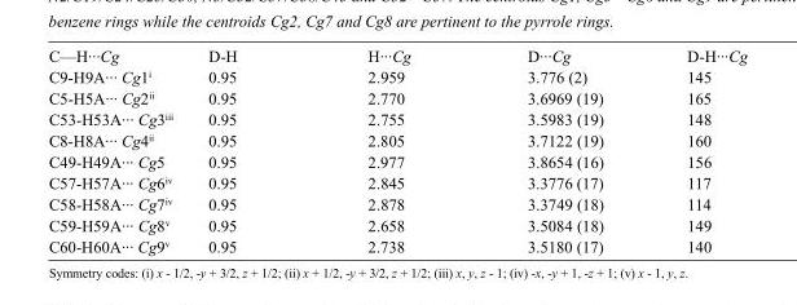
<table><tbody><tr><td>C—H···Cg</td><td>D-H</td><td>H···Cg</td><td>D···Cg</td><td>D-H···Cg</td></tr><tr><td>C9-H9A··· Cg1<sup>i</sup></td><td>0.95</td><td>2.959</td><td>3.776 (2)</td><td>145</td></tr><tr><td>C5-H5A··· Cg2<sup>ii</sup></td><td>0.95</td><td>2.770</td><td>3.6969 (19)</td><td>165</td></tr><tr><td>C53-H53A··· Cg3<sup>iii</sup></td><td>0.95</td><td>2.755</td><td>3.5983 (19)</td><td>148</td></tr><tr><td>C8-H8A··· Cg4<sup>ii</sup></td><td>0.95</td><td>2.805</td><td>3.7122 (19)</td><td>160</td></tr><tr><td>C49-H49A··· Cg5</td><td>0.95</td><td>2.977</td><td>3.8654 (16)</td><td>156</td></tr><tr><td>C57-H57A··· Cg6<sup>iv</sup></td><td>0.95</td><td>2.845</td><td>3.3776 (17)</td><td>117</td></tr><tr><td>C58-H58A··· Cg7<sup>iv</sup></td><td>0.95</td><td>2.878</td><td>3.3749 (18)</td><td>114</td></tr><tr><td>C59-H59A··· Cg8<sup>v</sup></td><td>0.95</td><td>2.658</td><td>3.5084 (18)</td><td>149</td></tr><tr><td>C60-H60A··· Cg9<sup>v</sup></td><td>0.95</td><td>2.738</td><td>3.5180 (17)</td><td>140</td></tr></tbody></table>